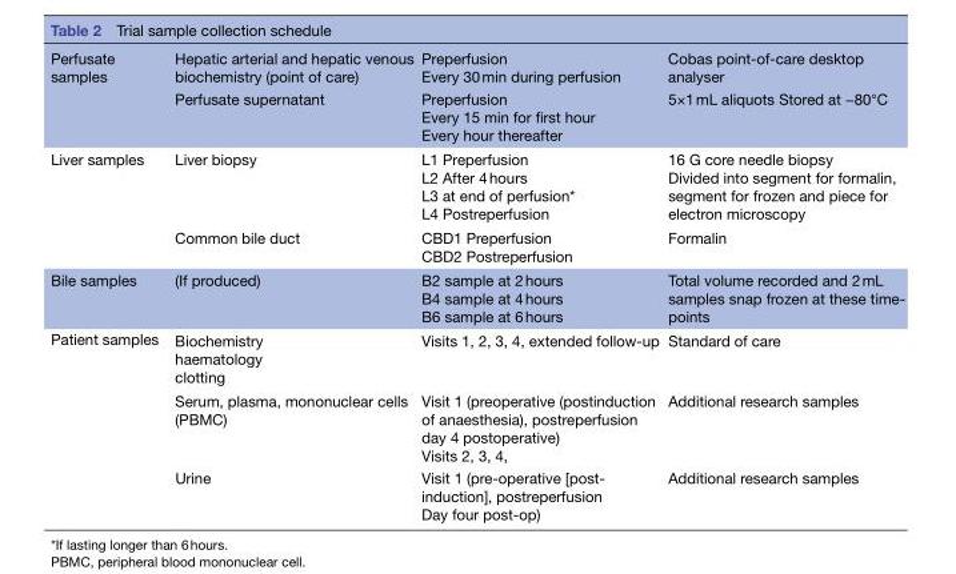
<table><tbody><tr><td rowspan="2">Perfusate samples</td><td>Hepatic arterial and hepatic venous biochemistry (point of care)</td><td>Preperfusion Every 30 min during perfusion</td><td>Cobas point-of-care desktop analyser</td></tr><tr><td>Perfusate supernatant</td><td>Preperfusion Every 15 min for first hour Every hour thereafter</td><td>5×1 mL aliquots Stored at −80°C</td></tr><tr><td rowspan="2">Liver samples</td><td>Liver biopsy</td><td>L1 Preperfusion L2 After 4 hours L3 at end of perfusion* L4 Postreperfusion</td><td>16 G core needle biopsy Divided into segment for formalin, segment for frozen and piece for electron microscopy</td></tr><tr><td>Common bile duct</td><td>CBD1 Preperfusion CBD2 Postreperfusion</td><td>Formalin</td></tr><tr><td>Bile samples</td><td>(If produced)</td><td>B2 sample at 2 hours B4 sample at 4 hours B6 sample at 6 hours</td><td>Total volume recorded and 2 mL samples snap frozen at these time- points</td></tr><tr><td rowspan="3">Patient samples</td><td>Biochemistry haematology clotting</td><td>Visits 1, 2, 3, 4, extended follow-up</td><td>Standard of care</td></tr><tr><td>Serum, plasma, mononuclear cells (PBMC)</td><td>Visit 1 (preoperative (postinduction of anaesthesia), postreperfusion day 4 postoperative) Visits 2, 3, 4,</td><td>Additional research samples</td></tr><tr><td>Urine</td><td>Visit 1 (pre-operative [post- induction], postreperfusion Day four post-op)</td><td>Additional research samples</td></tr></tbody></table>